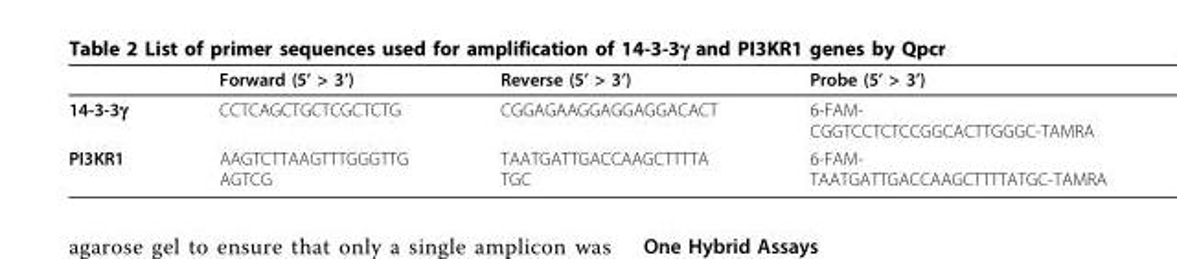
<table><thead><tr><td></td><td>Forward (5’ &gt; 3’)</td><td>Reverse (5’ &gt; 3’)</td><td>Probe (5’ &gt; 3’)</td></tr></thead><tbody><tr><td>14-3-3γ</td><td>CCTCAGCTGCTCGCTCTG</td><td>CGGAGAAGGAGGAGGACACT</td><td>6-FAM- CGGTCCTCTCCGGCACTTGGGC-TAMRA</td></tr><tr><td>PI3KR1</td><td>AAGTCTTAAGTTTGGGTTG AGTCG</td><td>TAATGATTGACCAAGCTTTTA TGC</td><td>6-FAM- TAATGATTGACCAAGCTTTTATGC-TAMRA</td></tr></tbody></table>